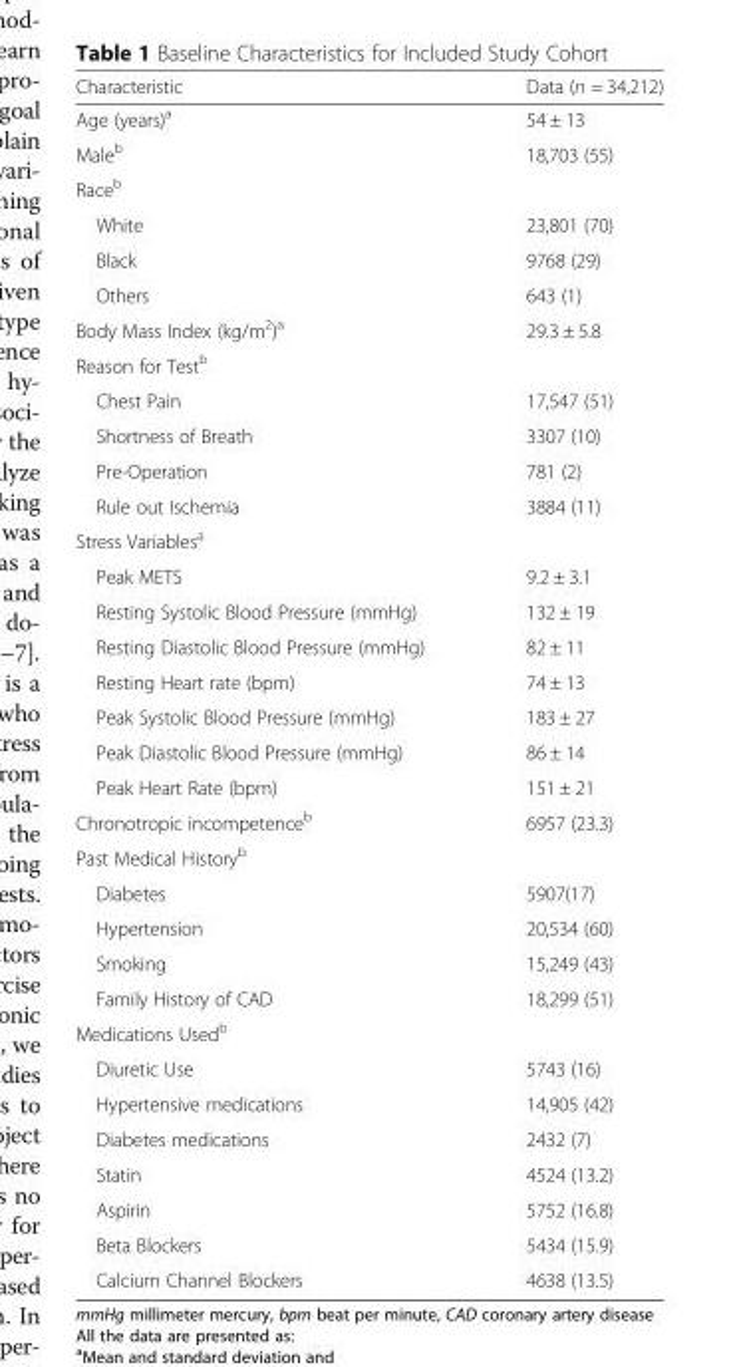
<table><thead><tr><td>Characteristic</td><td>Data (n = 34,212)</td></tr></thead><tbody><tr><td>Age (years)<sup>a</sup></td><td>54 ± 13</td></tr><tr><td>Male<sup>b</sup></td><td>18,703 (55)</td></tr><tr><td colspan="2">Race<sup>b</sup></td></tr><tr><td>White</td><td>23,801 (70)</td></tr><tr><td>Black</td><td>9768 (29)</td></tr><tr><td>Others</td><td>643 (1)</td></tr><tr><td>Body Mass Index (kg/m<sup>2</sup>)<sup>a</sup></td><td>29.3 ± 5.8</td></tr><tr><td colspan="2">Reason for Test<sup>b</sup></td></tr><tr><td>Chest Pain</td><td>17,547 (51)</td></tr><tr><td>Shortness of Breath</td><td>3307 (10)</td></tr><tr><td>Pre-Operation</td><td>781 (2)</td></tr><tr><td>Rule out Ischemia</td><td>3884 (11)</td></tr><tr><td colspan="2">Stress Variables<sup>a</sup></td></tr><tr><td>Peak METS</td><td>9.2 ± 3.1</td></tr><tr><td>Resting Systolic Blood Pressure (mmHg)</td><td>132 ± 19</td></tr><tr><td>Resting Diastolic Blood Pressure (mmHg)</td><td>82 ± 11</td></tr><tr><td>Resting Heart rate (bpm)</td><td>74 ± 13</td></tr><tr><td>Peak Systolic Blood Pressure (mmHg)</td><td>183 ± 27</td></tr><tr><td>Peak Diastolic Blood Pressure (mmHg)</td><td>86 ± 14</td></tr><tr><td>Peak Heart Rate (bpm)</td><td>151 ± 21</td></tr><tr><td>Chronotropic incompetence<sup>b</sup></td><td>6957 (23.3)</td></tr><tr><td colspan="2">Past Medical History<sup>b</sup></td></tr><tr><td>Diabetes</td><td>5907(17)</td></tr><tr><td>Hypertension</td><td>20,534 (60)</td></tr><tr><td>Smoking</td><td>15,249 (43)</td></tr><tr><td>Family History of CAD</td><td>18,299 (51)</td></tr><tr><td colspan="2">Medications Used<sup>b</sup></td></tr><tr><td>Diuretic Use</td><td>5743 (16)</td></tr><tr><td>Hypertensive medications</td><td>14,905 (42)</td></tr><tr><td>Diabetes medications</td><td>2432 (7)</td></tr><tr><td>Statin</td><td>4524 (13.2)</td></tr><tr><td>Aspirin</td><td>5752 (16.8)</td></tr><tr><td>Beta Blockers</td><td>5434 (15.9)</td></tr><tr><td>Calcium Channel Blockers</td><td>4638 (13.5)</td></tr></tbody></table>